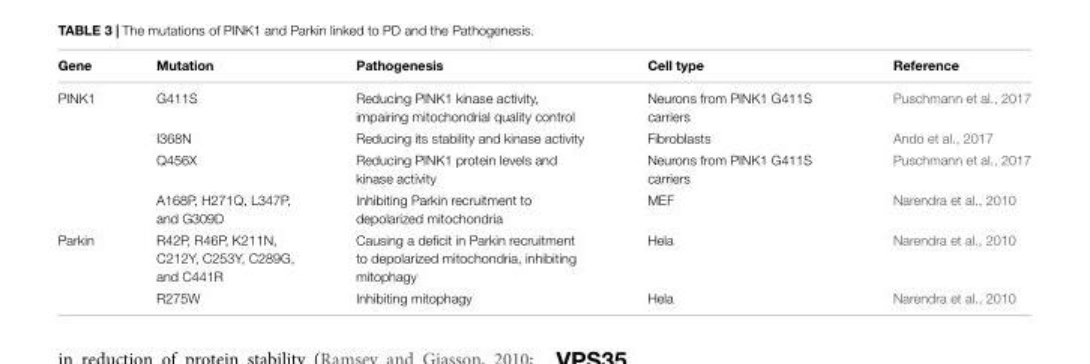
<table><thead><tr><td>Gene</td><td>Mutation</td><td>Pathogenesis</td><td>Cell type</td><td>Reference</td></tr></thead><tbody><tr><td rowspan="4">PINK1</td><td>G411S</td><td>Reducing PINK1 kinase activity, impairing mitochondrial quality control</td><td>Neurons from PINK1 G411S carriers</td><td>Puschmann et al., 2017</td></tr><tr><td>I368N</td><td>Reducing its stability and kinase activity</td><td>Fibroblasts</td><td>Ando et al., 2017</td></tr><tr><td>Q456X</td><td>Reducing PINK1 protein levels and kinase activity</td><td>Neurons from PINK1 G411S carriers</td><td>Puschmann et al., 2017</td></tr><tr><td>A168P, H271Q, L347P, and G309D</td><td>Inhibiting Parkin recruitment to depolarized mitochondria</td><td>MEF</td><td>Narendra et al., 2010</td></tr><tr><td rowspan="2">Parkin</td><td>R42P, R46P, K211N, C212Y, C253Y, C289G, and C441R</td><td>Causing a deficit in Parkin recruitment to depolarized mitochondria, inhibiting mitophagy</td><td>Hela</td><td>Narendra et al., 2010</td></tr><tr><td>R275W</td><td>Inhibiting mitophagy</td><td>Hela</td><td>Narendra et al., 2010</td></tr></tbody></table>